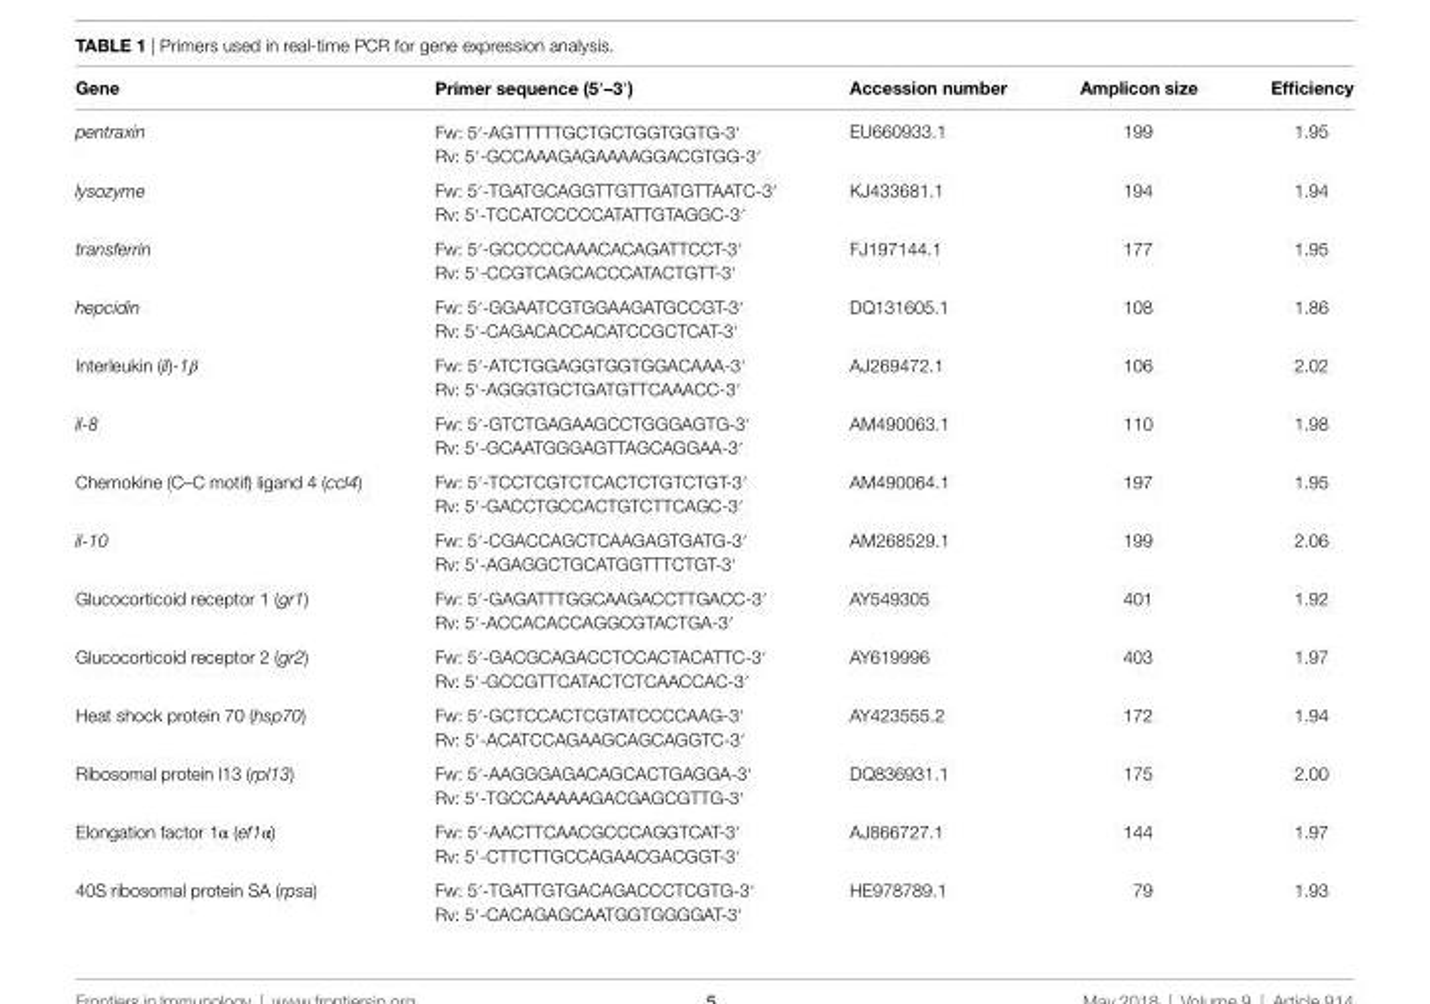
<table><thead><tr><td>gene</td><td>Primer sequence (5′–3′)</td><td>accession number</td><td>amplicon size</td><td>efficiency</td></tr></thead><tbody><tr><td>pentraxin</td><td>Fw: 5′-AGTTTTTGCTGCTGGTGGTG-3′ Rv: 5′-GCCAAAGAGAAAAGGACGTGG-3′</td><td>EU660933.1</td><td>199</td><td>1.95</td></tr><tr><td>lysozyme</td><td>Fw: 5′-TGATGCAGGTTGTTGATGTTAATC-3′ Rv: 5′-TCCATCCCCCATATTGTAGGC-3′</td><td>KJ433681.1</td><td>194</td><td>1.94</td></tr><tr><td>transferrin</td><td>Fw: 5′-GCCCCCAAACACAGATTCCT-3′ Rv: 5′-CCGTCAGCACCCATACTGTT-3′</td><td>FJ197144.1</td><td>177</td><td>1.95</td></tr><tr><td>hepcidin</td><td>Fw: 5′-GGAATCGTGGAAGATGCCGT-3′ Rv: 5′-CAGACACCACATCCGCTCAT-3′</td><td>DQ131605.1</td><td>108</td><td>1.86</td></tr><tr><td>Interleukin (il)-1β</td><td>Fw: 5′-ATCTGGAGGTGGTGGACAAA-3′ Rv: 5′-AGGGTGCTGATGTTCAAACC-3′</td><td>AJ269472.1</td><td>106</td><td>2.02</td></tr><tr><td>il-8</td><td>Fw: 5′-GTCTGAGAAGCCTGGGAGTG-3′ Rv: 5′-GCAATGGGAGTTAGCAGGAA-3′</td><td>AM490063.1</td><td>110</td><td>1.98</td></tr><tr><td>Chemokine (C–C motif) ligand 4 (ccl4)</td><td>Fw: 5′-TCCTCGTCTCACTCTGTCTGT-3′ Rv: 5′-GACCTGCCACTGTCTTCAGC-3′</td><td>AM490064.1</td><td>197</td><td>1.95</td></tr><tr><td>il-10</td><td>Fw: 5′-CGACCAGCTCAAGAGTGATG-3′ Rv: 5′-AGAGGCTGCATGGTTTCTGT-3′</td><td>AM268529.1</td><td>199</td><td>2.06</td></tr><tr><td>Glucocorticoid receptor 1 (gr1)</td><td>Fw: 5′-GAGATTTGGCAAGACCTTGACC-3′ Rv: 5′-ACCACACCAGGCGTACTGA-3′</td><td>AY549305</td><td>401</td><td>1.92</td></tr><tr><td>Glucocorticoid receptor 2 (gr2)</td><td>Fw: 5′-GACGCAGACCTCCACTACATTC-3′ Rv: 5′-GCCGTTCATACTCTCAACCAC-3′</td><td>AY619996</td><td>403</td><td>1.97</td></tr><tr><td>Heat shock protein 70 (hsp70)</td><td>Fw: 5′-GCTCCACTCGTATCCCCAAG-3′ Rv: 5′-ACATCCAGAAGCAGCAGGTC-3′</td><td>AY423555.2</td><td>172</td><td>1.94</td></tr><tr><td>Ribosomal protein l13 (rpl13)</td><td>Fw: 5′-AAGGGAGACAGCACTGAGGA-3′ Rv: 5′-TGCCAAAAAGACGAGCGTTG-3′</td><td>DQ836931.1</td><td>175</td><td>2.00</td></tr><tr><td>Elongation factor 1α (ef1α)</td><td>Fw: 5′-AACTTCAACGCCCAGGTCAT-3′ Rv: 5′-CTTCTTGCCAGAACGACGGT-3′</td><td>AJ866727.1</td><td>144</td><td>1.97</td></tr><tr><td>40S ribosomal protein SA (rpsa)</td><td>Fw: 5′-TGATTGTGACAGACCCTCGTG-3′ Rv: 5′-CACAGAGCAATGGTGGGGAT-3′</td><td>HE978789.1</td><td>79</td><td>1.93</td></tr></tbody></table>